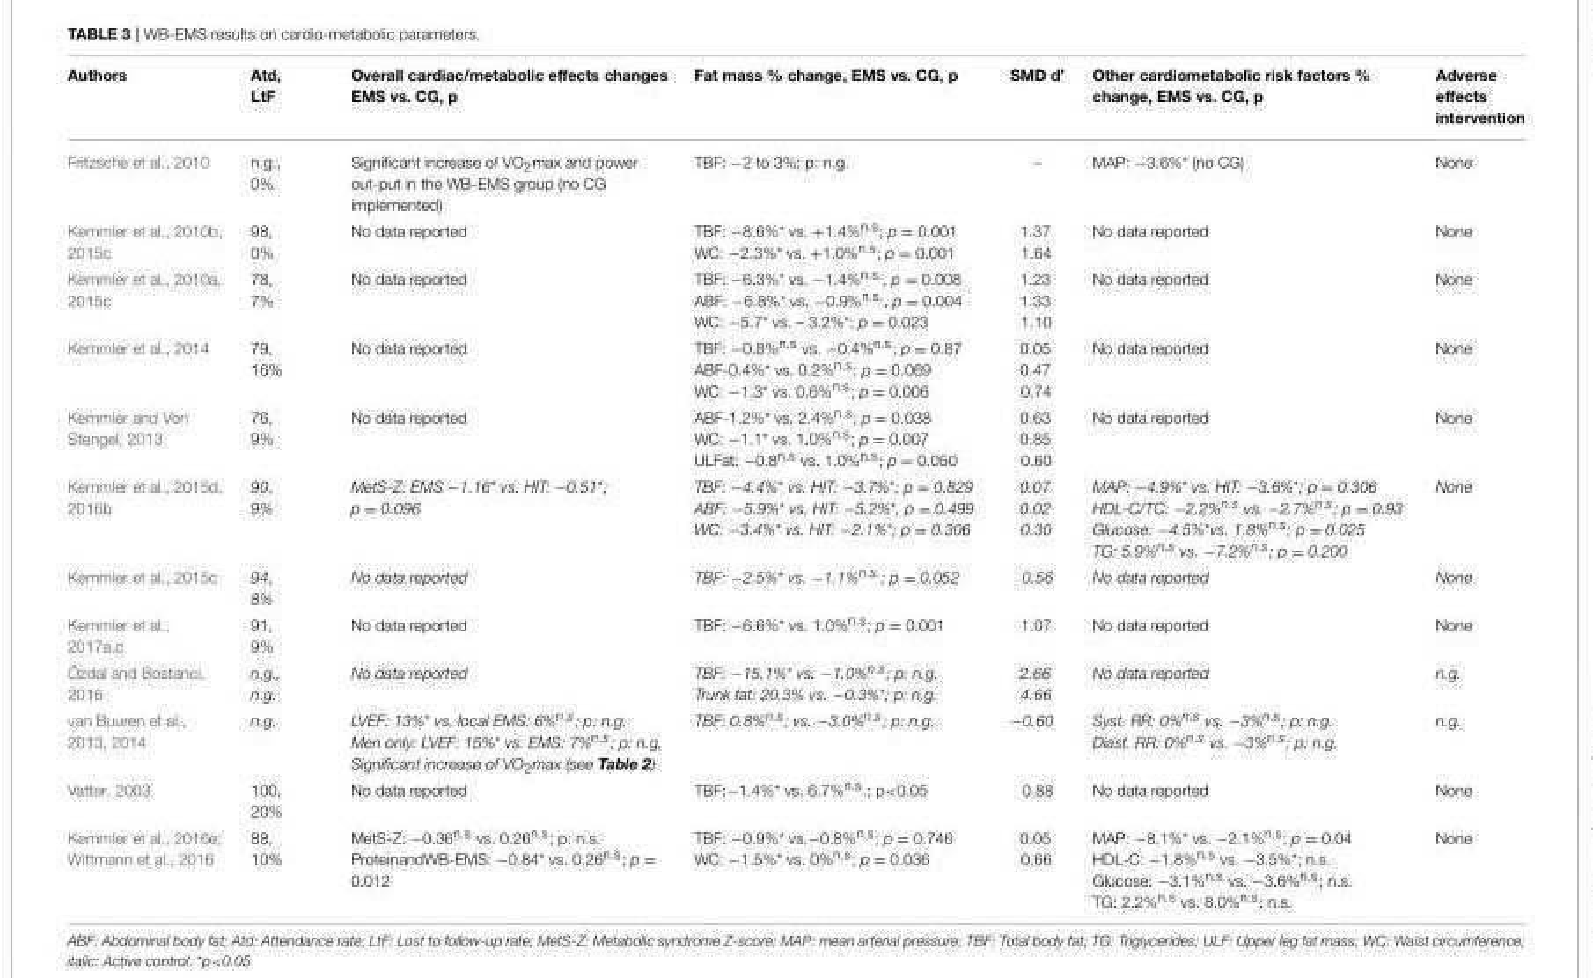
<table><thead><tr><td>Authors</td><td>Atd, LtF</td><td>Overall cardiac/metabolic effects changes EMS vs. CG, p</td><td>Fat mass % change, EMS vs. CG, p</td><td>SMD d’</td><td>Other cardiometabolic risk factors % change, EMS vs. CG, p</td><td>Adverse effects intervention</td></tr></thead><tbody><tr><td>Fritzsche et al., 2010</td><td>n.g., 0%</td><td>Significant increase of VO<sub>2</sub>max and power out-put in the WB-EMS group (no CG implemented)</td><td>TBF: −2 to 3%; p: n.g.</td><td>–</td><td>MAP: −3.6%* (no CG)</td><td>None</td></tr><tr><td>Kemmler et al., 2010b, 2015c</td><td>98, 0%</td><td>No data reported</td><td>TBF: −8.6%* vs. +1.4%<sup>n.s</sup>; p = 0.001 WC: −2.3%* vs. +1.0%<sup>n.s</sup>; p = 0.001</td><td>1.37 1.64</td><td>No data reported</td><td>None</td></tr><tr><td>Kemmler et al., 2010a, 2015c</td><td>78, 7%</td><td>No data reported</td><td>TBF: −6.3%* vs. −1.4%<sup>n.s.</sup>, p = 0.008 ABF: −6.8%* vs. −0.9%<sup>n.s.</sup>, p = 0.004 WC: −5.7* vs. – 3.2%*; p = 0.023</td><td>1.23 1.33 1.10</td><td>No data reported</td><td>None</td></tr><tr><td>Kemmler et al., 2014</td><td>79, 16%</td><td>No data reported</td><td>TBF: −0.8%<sup>n.s</sup> vs. −0.4%<sup>n.s</sup>; p = 0.87 ABF-0.4%* vs. 0.2%<sup>n.s</sup>; p = 0.069 WC: −1.3* vs. 0.6%<sup>n.s</sup>; p = 0.006</td><td>0.05 0.47 0.74</td><td>No data reported</td><td>None</td></tr><tr><td>Kemmler and Von Stengel, 2013</td><td>76, 9%</td><td>No data reported</td><td>ABF-1.2%* vs. 2.4%<sup>n.s</sup>; p = 0.038 WC: −1.1* vs. 1.0%<sup>n.s</sup>; p = 0.007 ULFat: −0.8<sup>n.s</sup> vs. 1.0%<sup>n.s</sup>; p = 0.050</td><td>0.63 0.85 0.60</td><td>No data reported</td><td>None</td></tr><tr><td>Kemmler et al., 2015d, 2016b</td><td>90, 9%</td><td>MetS-Z: EMS −1.16* vs. HIT: −0.51*; p = 0.096</td><td>TBF: −4.4%* vs. HIT: −3.7%*; p = 0.829 ABF: −5.9%* vs. HIT: −5.2%*, p = 0.499 WC: −3.4%* vs. HIT: −2.1%*; p = 0.306</td><td>0.07 0.02 0.30</td><td>MAP: −4.9%* vs. HIT: −3.6%*; p = 0.306 HDL-C/TC: −2.2%n.s vs. −2.7%n.s; p = 0.93 Glucose: −4.5%*vs. 1.8%n.s; p = 0.025 TG: 5.9%n.s vs. −7.2%n.s; p = 0.200</td><td>None</td></tr><tr><td>Kemmler et al., 2015c</td><td>94, 8%</td><td>No data reported</td><td>TBF: −2.5%* vs. −1.1%n.s.; p = 0.052</td><td>0.56</td><td>No data reported</td><td>None</td></tr><tr><td>Kemmler et al., 2017a,c</td><td>91, 9%</td><td>No data reported</td><td>TBF: −6.6%* vs. 1.0%<sup>n.s</sup>; p = 0.001</td><td>1.07</td><td>No data reported</td><td>None</td></tr><tr><td>Özdal and Bostanci, 2016</td><td>n.g., n.g.</td><td>No data reported</td><td>TBF: −15.1%* vs. −1.0%n.s; p: n.g. Trunk fat: 20.3% vs. −0.3%*; p: n.g.</td><td>2.66 4.66</td><td>No data reported</td><td>n.g.</td></tr><tr><td>van Buuren et al., 2013, 2014</td><td>n.g.</td><td>LVEF: 13%* vs. local EMS: 6%n.s; p: n.g. Men only: LVEF: 15%* vs. EMS: 7%n.s; p: n.g. Significant increase of VO2max (see Table 2)</td><td>TBF: 0.8%n.s; vs. −3.0%n.s; p: n.g.</td><td>−0.60</td><td>Syst. RR: 0%n.s vs. −3%n.s; p: n.g. Diast. RR: 0%n.s vs. −3%n.s; p: n.g.</td><td>n.g.</td></tr><tr><td>Vatter, 2003</td><td>100, 20%</td><td>No data reported</td><td>TBF:−1.4%* vs. 6.7%<sup>n.s</sup>.; p&lt;0.05</td><td>0.88</td><td>No data reported</td><td>None</td></tr><tr><td>Kemmler et al., 2016e; Wittmann et al., 2016</td><td>88, 10%</td><td>MetS-Z: −0.36<sup>n.s</sup> vs. 0.26<sup>n.s</sup>; p: n.s. ProteinandWB-EMS: −0.84* vs. 0.26<sup>n.s</sup>; p = 0.012</td><td>TBF: −0.9%* vs.−0.8%<sup>n.s</sup>; p = 0.746 WC: −1.5%* vs. 0%<sup>n.s</sup>; p = 0.036</td><td>0.05 0.66</td><td>MAP: −8.1%* vs. −2.1%<sup>n.s</sup>; p = 0.04 HDL-C: −1.8%<sup>n.s</sup> vs. −3.5%*; n.s. Glucose: −3.1%<sup>n.s</sup> vs. −3.6%<sup>n.s</sup>; n.s. TG: 2.2%<sup>n.s</sup> vs. 8.0%<sup>n.s</sup>; n.s.</td><td>None</td></tr></tbody></table>